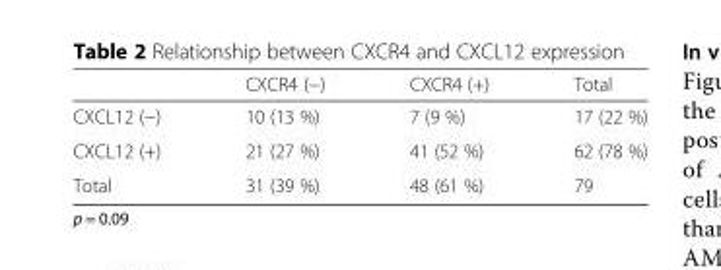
<table><thead><tr><td></td><td>CXCR4 (−)</td><td>CXCR4 (+)</td><td>Total</td></tr></thead><tbody><tr><td>CXCL12 (−)</td><td>10 (13 %)</td><td>7 (9 %)</td><td>17 (22 %)</td></tr><tr><td>CXCL12 (+)</td><td>21 (27 %)</td><td>41 (52 %)</td><td>62 (78 %)</td></tr><tr><td>Total</td><td>31 (39 %)</td><td>48 (61 %)</td><td>79</td></tr></tbody></table>